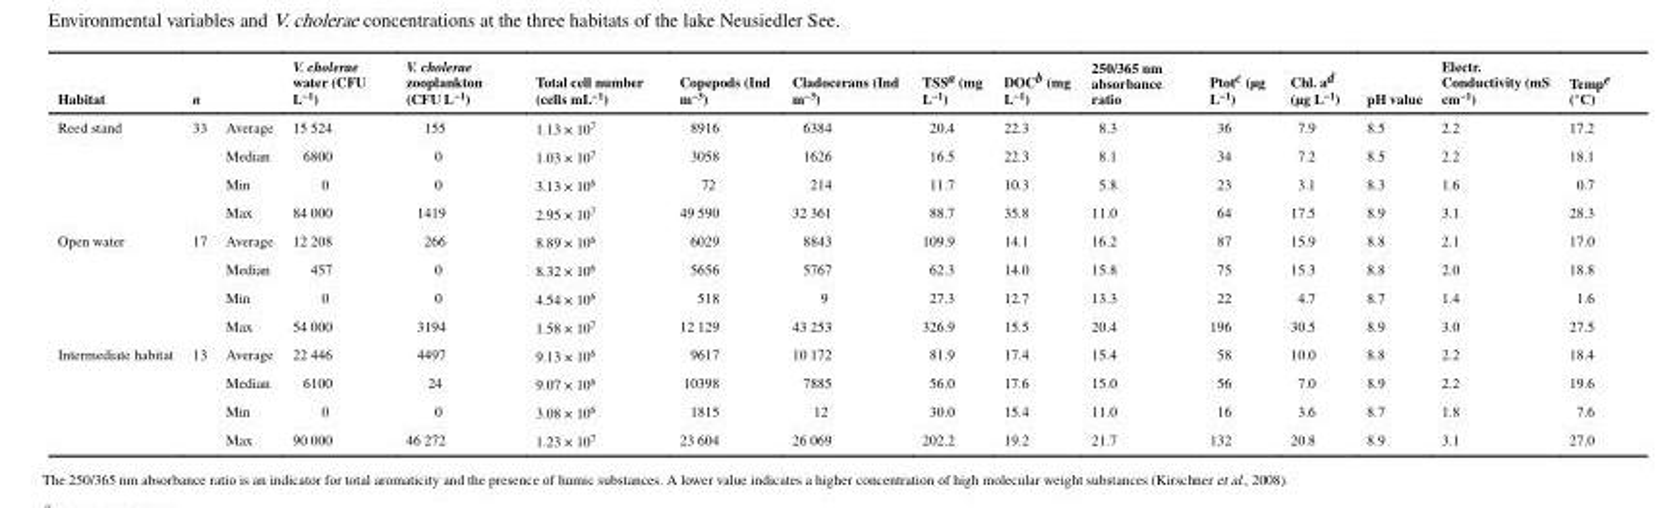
<table><thead><tr><td>Habitat</td><td>n</td><td></td><td>V. cholerae water (CFU L<sup>−1</sup>)</td><td>V. cholerae zooplankton (CFU L<sup>−1</sup>)</td><td>Total cell number (cells mL<sup>−1</sup>)</td><td>Copepods (Ind m<sup>−3</sup>)</td><td>Cladocerans (Ind m<sup>−3</sup>)</td><td>TSS<sup>a</sup> (mg L<sup>−1</sup>)</td><td>DOC<sup>b</sup> (mg L<sup>−1</sup>)</td><td>250/365 nm absorbance ratio</td><td>Ptot<sup>c</sup> (μg L<sup>−1</sup>)</td><td>Chl. a<sup>d</sup> (μg L<sup>−1</sup>)</td><td>pH value</td><td>Electr. Conductivity (mS cm<sup>−1</sup>)</td><td>Temp<sup>e</sup> (°C)</td></tr></thead><tbody><tr><td rowspan="4">Reed stand</td><td rowspan="4">33</td><td>Average</td><td>15 524</td><td>155</td><td>1.13 × 10<sup>7</sup></td><td>8916</td><td>6384</td><td>20.4</td><td>22.3</td><td>8.3</td><td>36</td><td>7.9</td><td>8.5</td><td>2.2</td><td>17.2</td></tr><tr><td>Median</td><td>6800</td><td>0</td><td>1.03 × 10<sup>7</sup></td><td>3058</td><td>1626</td><td>16.5</td><td>22.3</td><td>8.1</td><td>34</td><td>7.2</td><td>8.5</td><td>2.2</td><td>18.1</td></tr><tr><td>Min</td><td>0</td><td>0</td><td>3.13 × 10<sup>6</sup></td><td>72</td><td>214</td><td>11.7</td><td>10.3</td><td>5.8</td><td>23</td><td>3.1</td><td>8.3</td><td>1.6</td><td>0.7</td></tr><tr><td>Max</td><td>84 000</td><td>1419</td><td>2.95 × 10<sup>7</sup></td><td>49 590</td><td>32 361</td><td>88.7</td><td>35.8</td><td>11.0</td><td>64</td><td>17.5</td><td>8.9</td><td>3.1</td><td>28.3</td></tr><tr><td rowspan="4">Open water</td><td rowspan="4">17</td><td>Average</td><td>12 208</td><td>266</td><td>8.89 × 10<sup>6</sup></td><td>6029</td><td>8843</td><td>109.9</td><td>14.1</td><td>16.2</td><td>87</td><td>15.9</td><td>8.8</td><td>2.1</td><td>17.0</td></tr><tr><td>Median</td><td>457</td><td>0</td><td>8.32 × 10<sup>6</sup></td><td>5656</td><td>5767</td><td>62.3</td><td>14.0</td><td>15.8</td><td>75</td><td>15.3</td><td>8.8</td><td>2.0</td><td>18.8</td></tr><tr><td>Min</td><td>0</td><td>0</td><td>4.54 × 10<sup>6</sup></td><td>518</td><td>9</td><td>27.3</td><td>12.7</td><td>13.3</td><td>22</td><td>4.7</td><td>8.7</td><td>1.4</td><td>1.6</td></tr><tr><td>Max</td><td>54 000</td><td>3194</td><td>1.58 × 10<sup>7</sup></td><td>12 129</td><td>43 253</td><td>326.9</td><td>15.5</td><td>20.4</td><td>196</td><td>30.5</td><td>8.9</td><td>3.0</td><td>27.5</td></tr><tr><td rowspan="4">Intermediate habitat</td><td rowspan="4">13</td><td>Average</td><td>22 446</td><td>4497</td><td>9.13 × 10<sup>6</sup></td><td>9617</td><td>10 172</td><td>81.9</td><td>17.4</td><td>15.4</td><td>58</td><td>10.0</td><td>8.8</td><td>2.2</td><td>18.4</td></tr><tr><td>Median</td><td>6100</td><td>24</td><td>9.07 × 10<sup>6</sup></td><td>10398</td><td>7885</td><td>56.0</td><td>17.6</td><td>15.0</td><td>56</td><td>7.0</td><td>8.9</td><td>2.2</td><td>19.6</td></tr><tr><td>Min</td><td>0</td><td>0</td><td>3.08 × 10<sup>6</sup></td><td>1815</td><td>12</td><td>30.0</td><td>15.4</td><td>11.0</td><td>16</td><td>3.6</td><td>8.7</td><td>1.8</td><td>7.6</td></tr><tr><td>Max</td><td>90 000</td><td>46 272</td><td>1.23 × 10<sup>7</sup></td><td>23 604</td><td>26 069</td><td>202.2</td><td>19.2</td><td>21.7</td><td>132</td><td>20.8</td><td>8.9</td><td>3.1</td><td>27.0</td></tr></tbody></table>